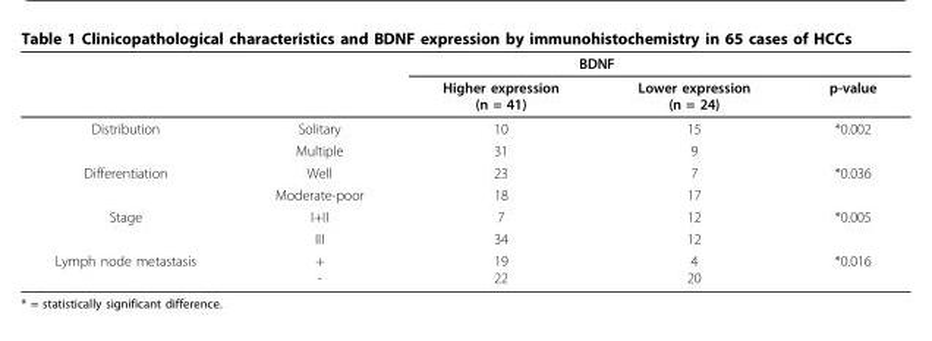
<table><thead><tr><td rowspan="2"></td><td rowspan="2"></td><td colspan="2">BDNF</td><td rowspan="2">p-value</td></tr><tr><td>Higher expression (n = 41)</td><td>Lower expression (n = 24)</td></tr></thead><tbody><tr><td rowspan="2">Distribution</td><td>Solitary</td><td>10</td><td>15</td><td>*0.002</td></tr><tr><td>Multiple</td><td>31</td><td>9</td><td></td></tr><tr><td rowspan="2">Differentiation</td><td>Well</td><td>23</td><td>7</td><td>*0.036</td></tr><tr><td>Moderate-poor</td><td>18</td><td>17</td><td></td></tr><tr><td rowspan="2">Stage</td><td>I+II</td><td>7</td><td>12</td><td>*0.005</td></tr><tr><td>III</td><td>34</td><td>12</td><td></td></tr><tr><td>Lymph node metastasis</td><td>+ -</td><td>19 22</td><td>4 20</td><td>*0.016</td></tr></tbody></table>